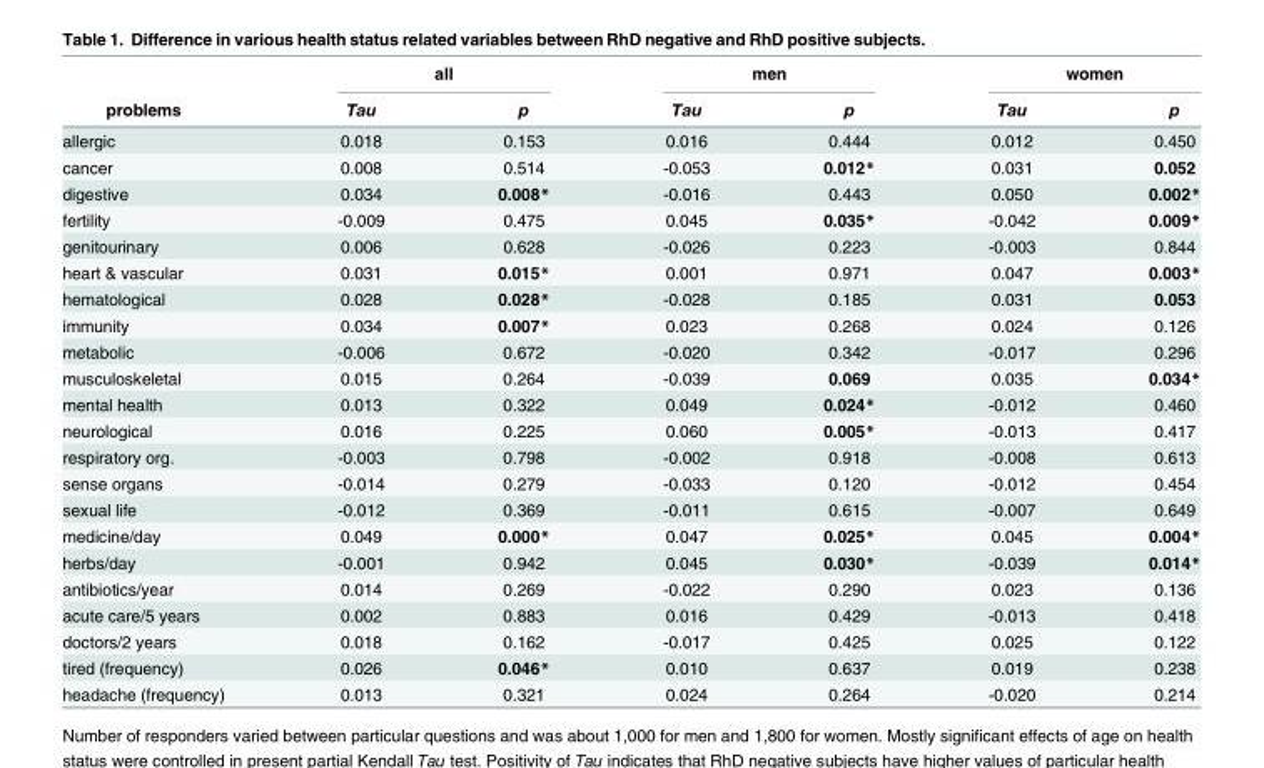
<table><thead><tr><td rowspan="2">problems</td><td colspan="2">all</td><td colspan="2">men</td><td colspan="2">women</td></tr><tr><td>Tau</td><td>p</td><td>Tau</td><td>p</td><td>Tau</td><td>p</td></tr></thead><tbody><tr><td>allergic</td><td>0.018</td><td>0.153</td><td>0.016</td><td>0.444</td><td>0.012</td><td>0.450</td></tr><tr><td>cancer</td><td>0.008</td><td>0.514</td><td>-0.053</td><td>0.012*</td><td>0.031</td><td>0.052</td></tr><tr><td>digestive</td><td>0.034</td><td>0.008*</td><td>-0.016</td><td>0.443</td><td>0.050</td><td>0.002*</td></tr><tr><td>fertility</td><td>-0.009</td><td>0.475</td><td>0.045</td><td>0.035*</td><td>-0.042</td><td>0.009*</td></tr><tr><td>genitourinary</td><td>0.006</td><td>0.628</td><td>-0.026</td><td>0.223</td><td>-0.003</td><td>0.844</td></tr><tr><td>heart &amp; vascular</td><td>0.031</td><td>0.015*</td><td>0.001</td><td>0.971</td><td>0.047</td><td>0.003*</td></tr><tr><td>hematological</td><td>0.028</td><td>0.028*</td><td>-0.028</td><td>0.185</td><td>0.031</td><td>0.053</td></tr><tr><td>immunity</td><td>0.034</td><td>0.007*</td><td>0.023</td><td>0.268</td><td>0.024</td><td>0.126</td></tr><tr><td>metabolic</td><td>-0.006</td><td>0.672</td><td>-0.020</td><td>0.342</td><td>-0.017</td><td>0.296</td></tr><tr><td>musculoskeletal</td><td>0.015</td><td>0.264</td><td>-0.039</td><td>0.069</td><td>0.035</td><td>0.034*</td></tr><tr><td>mental health</td><td>0.013</td><td>0.322</td><td>0.049</td><td>0.024*</td><td>-0.012</td><td>0.460</td></tr><tr><td>neurological</td><td>0.016</td><td>0.225</td><td>0.060</td><td>0.005*</td><td>-0.013</td><td>0.417</td></tr><tr><td>respiratory org.</td><td>-0.003</td><td>0.798</td><td>-0.002</td><td>0.918</td><td>-0.008</td><td>0.613</td></tr><tr><td>sense organs</td><td>-0.014</td><td>0.279</td><td>-0.033</td><td>0.120</td><td>-0.012</td><td>0.454</td></tr><tr><td>sexual life</td><td>-0.012</td><td>0.369</td><td>-0.011</td><td>0.615</td><td>-0.007</td><td>0.649</td></tr><tr><td>medicine/day</td><td>0.049</td><td>0.000*</td><td>0.047</td><td>0.025*</td><td>0.045</td><td>0.004*</td></tr><tr><td>herbs/day</td><td>-0.001</td><td>0.942</td><td>0.045</td><td>0.030*</td><td>-0.039</td><td>0.014*</td></tr><tr><td>antibiotics/year</td><td>0.014</td><td>0.269</td><td>-0.022</td><td>0.290</td><td>0.023</td><td>0.136</td></tr><tr><td>acute care/5 years</td><td>0.002</td><td>0.883</td><td>0.016</td><td>0.429</td><td>-0.013</td><td>0.418</td></tr><tr><td>doctors/2 years</td><td>0.018</td><td>0.162</td><td>-0.017</td><td>0.425</td><td>0.025</td><td>0.122</td></tr><tr><td>tired (frequency)</td><td>0.026</td><td>0.046*</td><td>0.010</td><td>0.637</td><td>0.019</td><td>0.238</td></tr><tr><td>headache (frequency)</td><td>0.013</td><td>0.321</td><td>0.024</td><td>0.264</td><td>-0.020</td><td>0.214</td></tr></tbody></table>